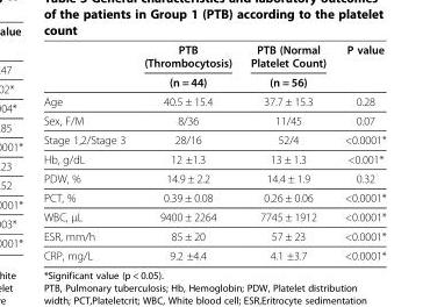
<table><thead><tr><td rowspan="2"></td><td rowspan="2">PTB (Thrombocytosis) (n = 44)</td><td rowspan="2">PTB (Normal Platelet Count) (n = 56)</td><td rowspan="2">P value</td></tr><tr></tr></thead><tbody><tr><td>Age</td><td>40.5 ± 15.4</td><td>37.7 ± 15.3</td><td>0.28</td></tr><tr><td>Sex, F/M</td><td>8/36</td><td>11/45</td><td>0.07</td></tr><tr><td>Stage 1,2/Stage 3</td><td>28/16</td><td>52/4</td><td>&lt;0.0001*</td></tr><tr><td>Hb, g/dL</td><td>12 ±1.3</td><td>13 ± 1.3</td><td>&lt;0.001*</td></tr><tr><td>PDW, %</td><td>14.9 ± 2.2</td><td>14.4 ± 1.9</td><td>0.32</td></tr><tr><td>PCT, %</td><td>0.39 ± 0.08</td><td>0.26 ± 0.06</td><td>&lt;0.0001*</td></tr><tr><td>WBC, μL</td><td>9400 ± 2264</td><td>7745 ± 1912</td><td>&lt;0.0001*</td></tr><tr><td>ESR, mm/h</td><td>85 ± 20</td><td>57 ± 23</td><td>&lt;0.0001*</td></tr><tr><td>CRP, mg/L</td><td>9.2 ±4.4</td><td>4.1 ±3.7</td><td>&lt;0.0001*</td></tr></tbody></table>